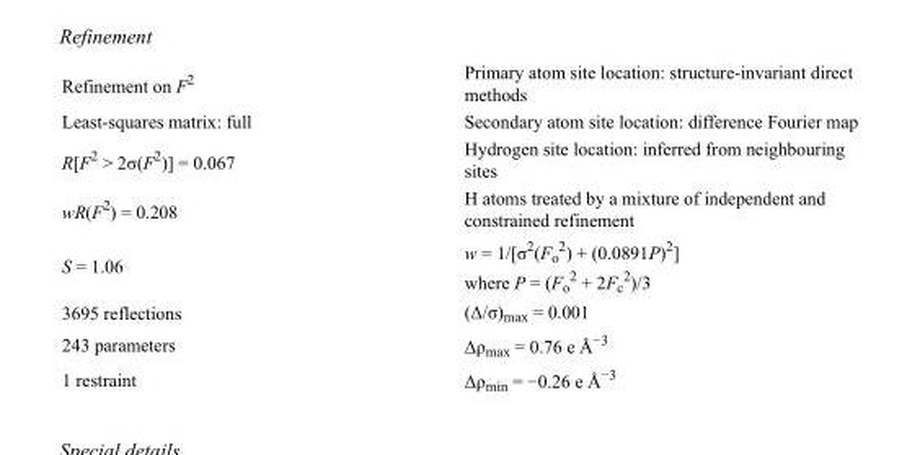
<table><tbody><tr><td>Refinement on F<sup>2</sup></td><td>Primary atom site location: structure-invariant direct methods</td></tr><tr><td>Least-squares matrix: full</td><td>Secondary atom site location: difference Fourier map</td></tr><tr><td>R[F<sup>2</sup> &gt; 2σ(F<sup>2</sup>)] = 0.067</td><td>Hydrogen site location: inferred from neighbouring sites</td></tr><tr><td>wR(F<sup>2</sup>) = 0.208</td><td>H atoms treated by a mixture of independent and constrained refinement</td></tr><tr><td>S = 1.06</td><td>w = 1/[σ<sup>2</sup>(F<sub>o</sub> <sup>2</sup>) + (0.0891P)<sup>2</sup>] where P = (F<sub>o</sub> <sup>2</sup> + 2F<sub>c</sub> <sup>2</sup>)/3</td></tr><tr><td>3695 reflections</td><td>(Δ/σ)<sub>max</sub> = 0.001</td></tr><tr><td>243 parameters</td><td>Δρ<sub>max</sub> = 0.76 e Å<sup>−3</sup></td></tr><tr><td>1 restraint</td><td>Δρ<sub>min</sub> = −0.26 e Å<sup>−3</sup></td></tr></tbody></table>